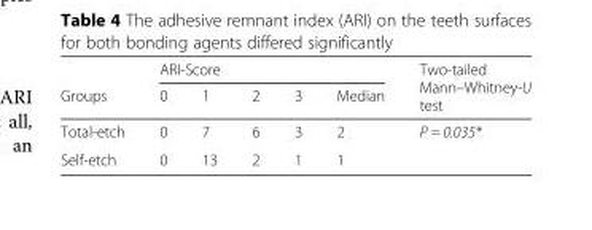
<table><thead><tr><td rowspan="2">Groups</td><td colspan="5">ARI-Score</td><td rowspan="2">Two-tailed Mann–Whitney-U test</td></tr><tr><td>0</td><td>1</td><td>2</td><td>3</td><td>Median</td></tr></thead><tbody><tr><td>Total-etch</td><td>0</td><td>7</td><td>6</td><td>3</td><td>2</td><td rowspan="2">P = 0.035*</td></tr><tr><td>Self-etch</td><td>0</td><td>13</td><td>2</td><td>1</td><td>1</td></tr></tbody></table>